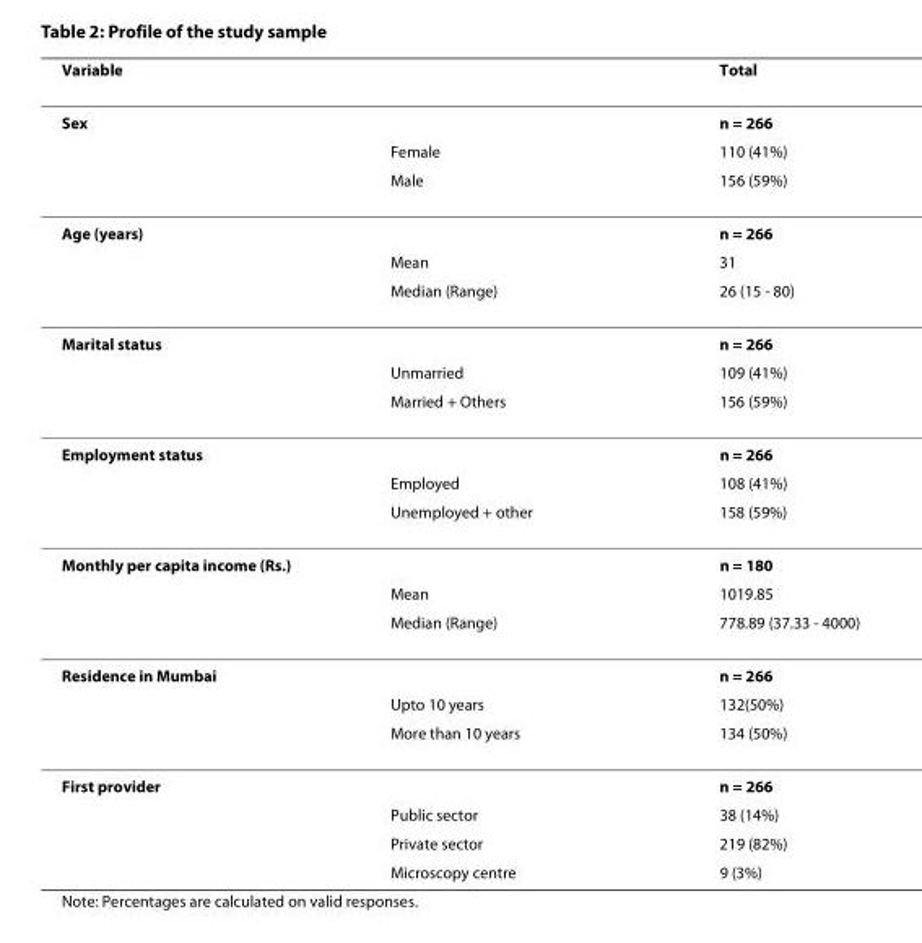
<table><thead><tr><td>Variable</td><td></td><td>Total</td></tr></thead><tbody><tr><td colspan="2">Sex</td><td>n = 266</td></tr><tr><td></td><td>Female</td><td>110 (41%)</td></tr><tr><td></td><td>Male</td><td>156 (59%)</td></tr><tr><td colspan="2">Age (years)</td><td>n = 266</td></tr><tr><td></td><td>Mean</td><td>31</td></tr><tr><td></td><td>Median (Range)</td><td>26 (15 - 80)</td></tr><tr><td colspan="2">Marital status</td><td>n = 266</td></tr><tr><td></td><td>Unmarried</td><td>109 (41%)</td></tr><tr><td></td><td>Married + Others</td><td>156 (59%)</td></tr><tr><td colspan="2">Employment status</td><td>n = 266</td></tr><tr><td></td><td>Employed</td><td>108 (41%)</td></tr><tr><td></td><td>Unemployed + other</td><td>158 (59%)</td></tr><tr><td colspan="2">Monthly per capita income (Rs.)</td><td>n = 180</td></tr><tr><td></td><td>Mean</td><td>1019.85</td></tr><tr><td></td><td>Median (Range)</td><td>778.89 (37.33 - 4000)</td></tr><tr><td colspan="2">Residence in Mumbai</td><td>n = 266</td></tr><tr><td></td><td>Upto 10 years</td><td>132(50%)</td></tr><tr><td></td><td>More than 10 years</td><td>134 (50%)</td></tr><tr><td colspan="2">First provider</td><td>n = 266</td></tr><tr><td></td><td>Public sector</td><td>38 (14%)</td></tr><tr><td></td><td>Private sector</td><td>219 (82%)</td></tr><tr><td></td><td>Microscopy centre</td><td>9 (3%)</td></tr></tbody></table>